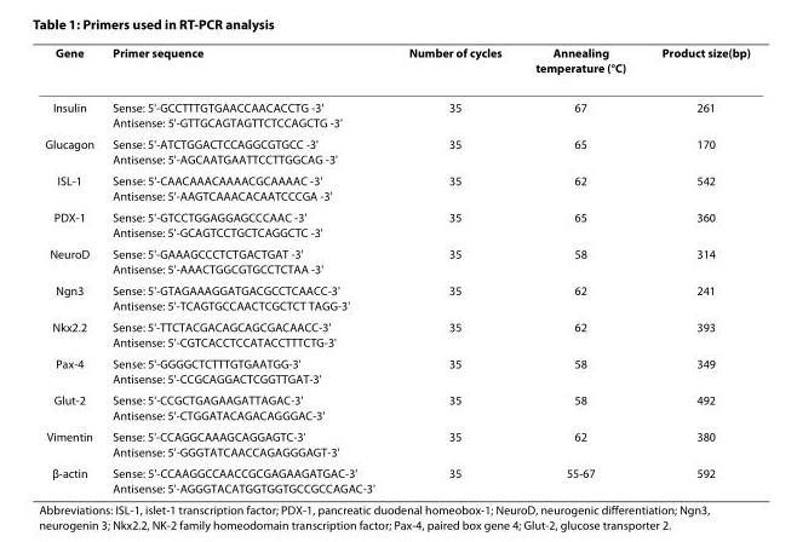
<table><thead><tr><td>Gene</td><td>Primer sequence</td><td>Number of cycles</td><td>Annealing temperature (°C)</td><td>Product size(bp)</td></tr></thead><tbody><tr><td>Insulin</td><td>Sense: 5&#x27;-GCCTTTGTGAACCAACACCTG -3&#x27; Antisense: 5&#x27;-GTTGCAGTAGTTCTCCAGCTG -3&#x27;</td><td>35</td><td>67</td><td>261</td></tr><tr><td>Glucagon</td><td>Sense: 5&#x27;-ATCTGGACTCCAGGCGTGCC -3&#x27; Antisense: 5&#x27;-AGCAATGAATTCCTTGGCAG -3&#x27;</td><td>35</td><td>65</td><td>170</td></tr><tr><td>ISL-1</td><td>Sense: 5&#x27;-CAACAAACAAAACGCAAAAC -3&#x27; Antisense: 5&#x27;-AAGTCAAACACAATCCCGA -3&#x27;</td><td>35</td><td>62</td><td>542</td></tr><tr><td>PDX-1</td><td>Sense: 5&#x27;-GTCCTGGAGGAGCCCAAC -3&#x27; Antisense: 5&#x27;-GCAGTCCTGCTCAGGCTC -3&#x27;</td><td>35</td><td>65</td><td>360</td></tr><tr><td>NeuroD</td><td>Sense: 5&#x27;-GAAAGCCCTCTGACTGAT -3&#x27; Antisense: 5&#x27;-AAACTGGCGTGCCTCTAA -3&#x27;</td><td>35</td><td>58</td><td>314</td></tr><tr><td>Ngn3</td><td>Sense: 5&#x27;-GTAGAAAGGATGACGCCTCAACC-3&#x27; Antisense: 5&#x27;-TCAGTGCCAACTCGCTCT TAGG-3&#x27;</td><td>35</td><td>62</td><td>241</td></tr><tr><td>Nkx2.2</td><td>Sense: 5&#x27;-TTCTACGACAGCAGCGACAACC-3&#x27; Antisense: 5&#x27;-CGTCACCTCCATACCTTTCTG-3&#x27;</td><td>35</td><td>62</td><td>393</td></tr><tr><td>Pax-4</td><td>Sense: 5&#x27;-GGGGCTCTTTGTGAATGG-3&#x27; Antisense: 5&#x27;-CCGCAGGACTCGGTTGAT-3&#x27;</td><td>35</td><td>58</td><td>349</td></tr><tr><td>Glut-2</td><td>Sense: 5&#x27;-CCGCTGAGAAGATTAGAC-3&#x27; Antisense: 5&#x27;-CTGGATACAGACAGGGAC-3&#x27;</td><td>35</td><td>58</td><td>492</td></tr><tr><td>Vimentin</td><td>Sense: 5&#x27;-CCAGGCAAAGCAGGAGTC-3&#x27; Antisense: 5&#x27;-GGGTATCAACCAGAGGGAGT-3&#x27;</td><td>35</td><td>62</td><td>380</td></tr><tr><td>β-actin</td><td>Sense: 5&#x27;-CCAAGGCCAACCGCGAGAAGATGAC-3&#x27; Antisense: 5&#x27;-AGGGTACATGGTGGTGCCGCCAGAC-3&#x27;</td><td>35</td><td>55-67</td><td>592</td></tr></tbody></table>